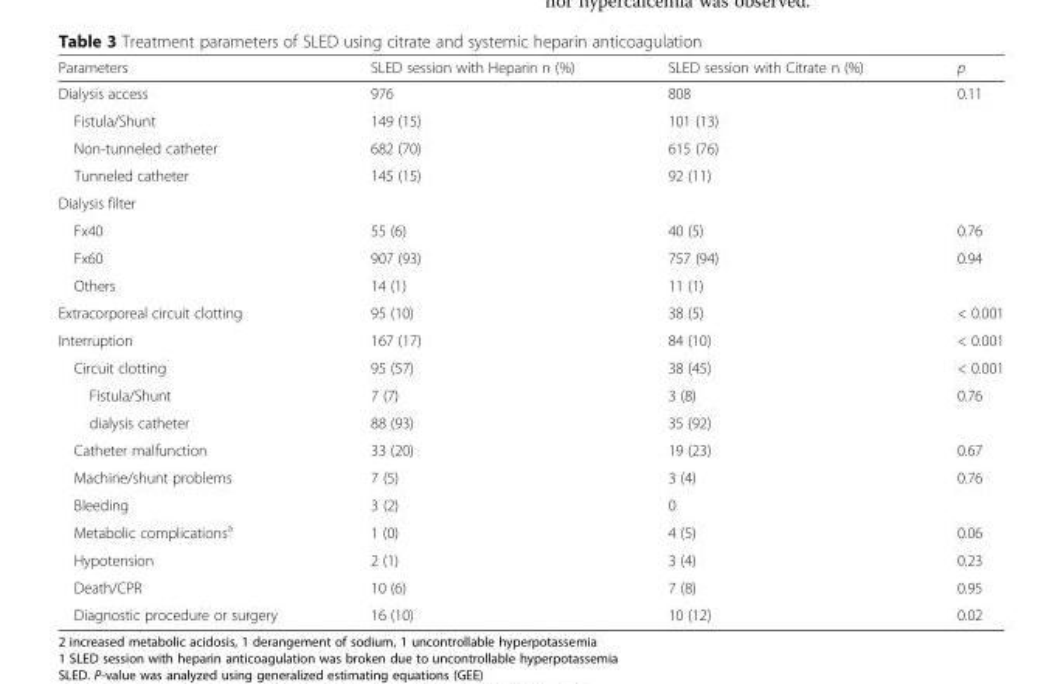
<table><thead><tr><td>Parameters</td><td>SLED session with Heparin n (%)</td><td>SLED session with Citrate n (%)</td><td>p</td></tr></thead><tbody><tr><td>Dialysis access</td><td>976</td><td>808</td><td>0.11</td></tr><tr><td>Fistula/Shunt</td><td>149 (15)</td><td>101 (13)</td><td></td></tr><tr><td>Non-tunneled catheter</td><td>682 (70)</td><td>615 (76)</td><td></td></tr><tr><td>Tunneled catheter</td><td>145 (15)</td><td>92 (11)</td><td></td></tr><tr><td colspan="4">Dialysis filter</td></tr><tr><td>Fx40</td><td>55 (6)</td><td>40 (5)</td><td>0.76</td></tr><tr><td>Fx60</td><td>907 (93)</td><td>757 (94)</td><td>0.94</td></tr><tr><td>Others</td><td>14 (1)</td><td>11 (1)</td><td></td></tr><tr><td>Extracorporeal circuit clotting</td><td>95 (10)</td><td>38 (5)</td><td>&lt; 0.001</td></tr><tr><td>Interruption</td><td>167 (17)</td><td>84 (10)</td><td>&lt; 0.001</td></tr><tr><td>Circuit clotting</td><td>95 (57)</td><td>38 (45)</td><td>&lt; 0.001</td></tr><tr><td>Fistula/Shunt</td><td>7 (7)</td><td>3 (8)</td><td>0.76</td></tr><tr><td>dialysis catheter</td><td>88 (93)</td><td>35 (92)</td><td></td></tr><tr><td>Catheter malfunction</td><td>33 (20)</td><td>19 (23)</td><td>0.67</td></tr><tr><td>Machine/shunt problems</td><td>7 (5)</td><td>3 (4)</td><td>0.76</td></tr><tr><td>Bleeding</td><td>3 (2)</td><td>0</td><td></td></tr><tr><td>Metabolic complications<sup>a</sup></td><td>1 (0)</td><td>4 (5)</td><td>0.06</td></tr><tr><td>Hypotension</td><td>2 (1)</td><td>3 (4)</td><td>0.23</td></tr><tr><td>Death/CPR</td><td>10 (6)</td><td>7 (8)</td><td>0.95</td></tr><tr><td>Diagnostic procedure or surgery</td><td>16 (10)</td><td>10 (12)</td><td>0.02</td></tr></tbody></table>